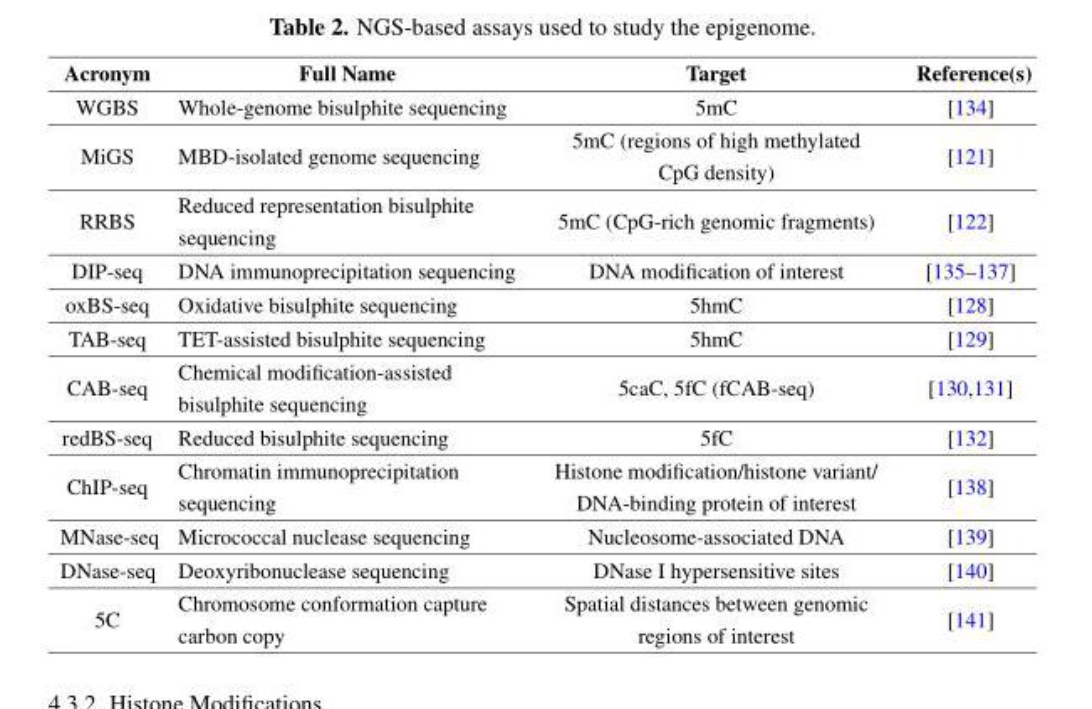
<table><thead><tr><td>Acronym</td><td>Full Name</td><td>Target</td><td>Reference(s)</td></tr></thead><tbody><tr><td>WGBS</td><td>Whole-genome bisulphite sequencing</td><td>5mC</td><td>[134]</td></tr><tr><td>MiGS</td><td>MBD-isolated genome sequencing</td><td>5mC (regions of high methylated CpG density)</td><td>[121]</td></tr><tr><td>RRBS</td><td>Reduced representation bisulphite sequencing</td><td>5mC (CpG-rich genomic fragments)</td><td>[122]</td></tr><tr><td>DIP-seq</td><td>DNA immunoprecipitation sequencing</td><td>DNA modification of interest</td><td>[135–137]</td></tr><tr><td>oxBS-seq</td><td>Oxidative bisulphite sequencing</td><td>5hmC</td><td>[128]</td></tr><tr><td>TAB-seq</td><td>TET-assisted bisulphite sequencing</td><td>5hmC</td><td>[129]</td></tr><tr><td>CAB-seq</td><td>Chemical modification-assisted bisulphite sequencing</td><td>5caC, 5fC (fCAB-seq)</td><td>[130,131]</td></tr><tr><td>redBS-seq</td><td>Reduced bisulphite sequencing</td><td>5fC</td><td>[132]</td></tr><tr><td>ChIP-seq</td><td>Chromatin immunoprecipitation sequencing</td><td>Histone modification/histone variant/ DNA-binding protein of interest</td><td>[138]</td></tr><tr><td>MNase-seq</td><td>Micrococcal nuclease sequencing</td><td>Nucleosome-associated DNA</td><td>[139]</td></tr><tr><td>DNase-seq</td><td>Deoxyribonuclease sequencing</td><td>DNase I hypersensitive sites</td><td>[140]</td></tr><tr><td>5C</td><td>Chromosome conformation capture carbon copy</td><td>Spatial distances between genomic regions of interest</td><td>[141]</td></tr></tbody></table>